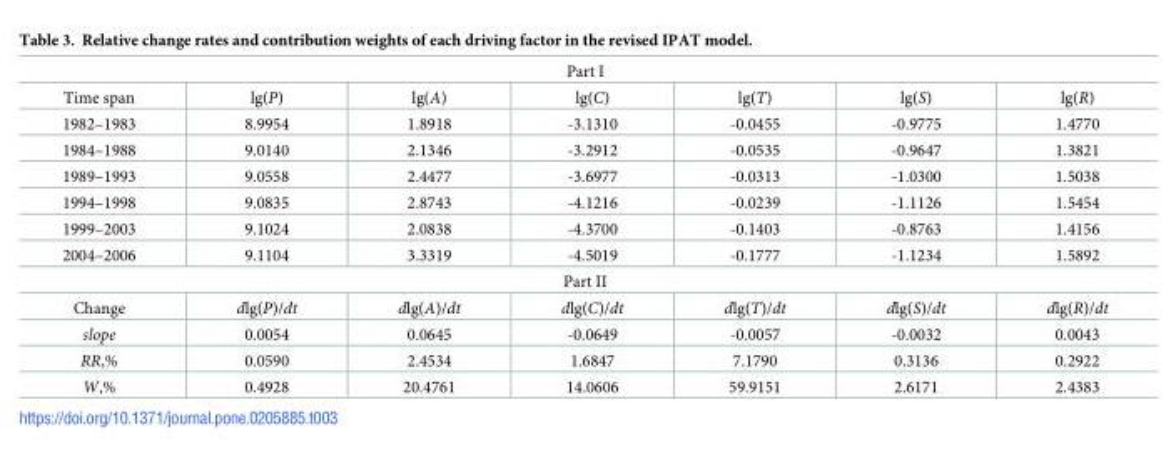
<table><tbody><tr><td colspan="7">Part I</td></tr><tr><td>Time span</td><td>lg(P)</td><td>lg(A)</td><td>lg(C)</td><td>lg(T)</td><td>lg(S)</td><td>lg(R)</td></tr><tr><td>1982–1983</td><td>8.9954</td><td>1.8918</td><td>-3.1310</td><td>-0.0455</td><td>-0.9775</td><td>1.4770</td></tr><tr><td>1984–1988</td><td>9.0140</td><td>2.1346</td><td>-3.2912</td><td>-0.0535</td><td>-0.9647</td><td>1.3821</td></tr><tr><td>1989–1993</td><td>9.0558</td><td>2.4477</td><td>-3.6977</td><td>-0.0313</td><td>-1.0300</td><td>1.5038</td></tr><tr><td>1994–1998</td><td>9.0835</td><td>2.8743</td><td>-4.1216</td><td>-0.0239</td><td>-1.1126</td><td>1.5454</td></tr><tr><td>1999–2003</td><td>9.1024</td><td>2.0838</td><td>-4.3700</td><td>-0.1403</td><td>-0.8763</td><td>1.4156</td></tr><tr><td>2004–2006</td><td>9.1104</td><td>3.3319</td><td>-4.5019</td><td>-0.1777</td><td>-1.1234</td><td>1.5892</td></tr><tr><td colspan="7">Part II</td></tr><tr><td>Change</td><td>dlg(P)/dt</td><td>dlg(A)/dt</td><td>dlg(C)/dt</td><td>dlg(T)/dt</td><td>dlg(S)/dt</td><td>dlg(R)/dt</td></tr><tr><td>slope</td><td>0.0054</td><td>0.0645</td><td>-0.0649</td><td>-0.0057</td><td>-0.0032</td><td>0.0043</td></tr><tr><td>RR,%</td><td>0.0590</td><td>2.4534</td><td>1.6847</td><td>7.1790</td><td>0.3136</td><td>0.2922</td></tr><tr><td>W,%</td><td>0.4928</td><td>20.4761</td><td>14.0606</td><td>59.9151</td><td>2.6171</td><td>2.4383</td></tr></tbody></table>